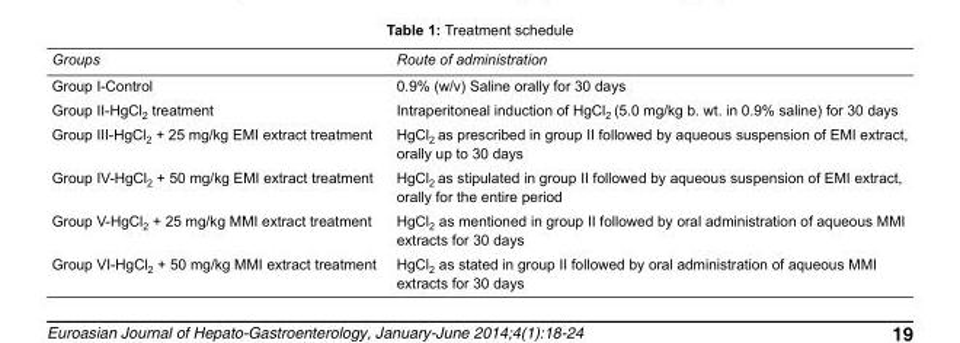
<table><tbody><tr><td>Groups</td><td>Route of administration</td></tr><tr><td>Group I-Control</td><td>0.9% (w/v) Saline orally for 30 days</td></tr><tr><td>Group II-HgCl<sub>2</sub> treatment</td><td>Intraperitoneal induction of HgCl<sub>2</sub> (5.0 mg/kg b. wt. in 0.9% saline) for 30 days</td></tr><tr><td>Group III-HgCl<sub>2</sub> + 25 mg/kg EMI extract treatment</td><td>HgCl<sub>2</sub> as prescribed in group II followed by aqueous suspension of EMI extract, orally up to 30 days</td></tr><tr><td>Group IV-HgCl<sub>2</sub> + 50 mg/kg EMI extract treatment</td><td>HgCl<sub>2</sub> as stipulated in group II followed by aqueous suspension of EMI extract, orally for the entire period</td></tr><tr><td>Group V-HgCl<sub>2</sub> + 25 mg/kg MMI extract treatment</td><td>HgCl<sub>2</sub> as mentioned in group II followed by oral administration of aqueous MMI extracts for 30 days</td></tr><tr><td>Group VI-HgCl<sub>2</sub> + 50 mg/kg MMI extract treatment</td><td>HgCl<sub>2</sub> as stated in group II followed by oral administration of aqueous MMI extracts for 30 days</td></tr></tbody></table>